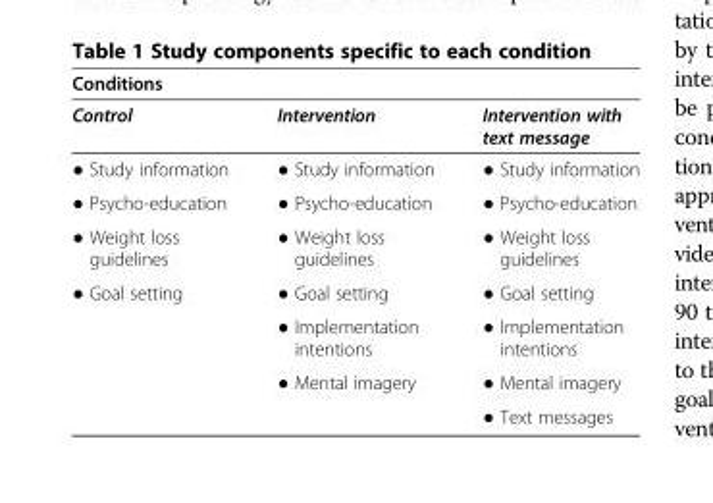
<table><thead><tr><td colspan="3">Conditions</td></tr><tr><td>Control</td><td>Intervention</td><td>Intervention with text message</td></tr></thead><tbody><tr><td>● Study information</td><td>● Study information</td><td>● Study information</td></tr><tr><td>● Psycho-education</td><td>● Psycho-education</td><td>● Psycho-education</td></tr><tr><td>● Weight loss guidelines</td><td>● Weight loss guidelines</td><td>● Weight loss guidelines</td></tr><tr><td rowspan="4">● Goal setting</td><td>● Goal setting</td><td>● Goal setting</td></tr><tr><td>● Implementation intentions</td><td>● Implementation intentions</td></tr><tr><td>● Mental imagery</td><td>● Mental imagery</td></tr><tr><td></td><td>● Text messages</td></tr></tbody></table>